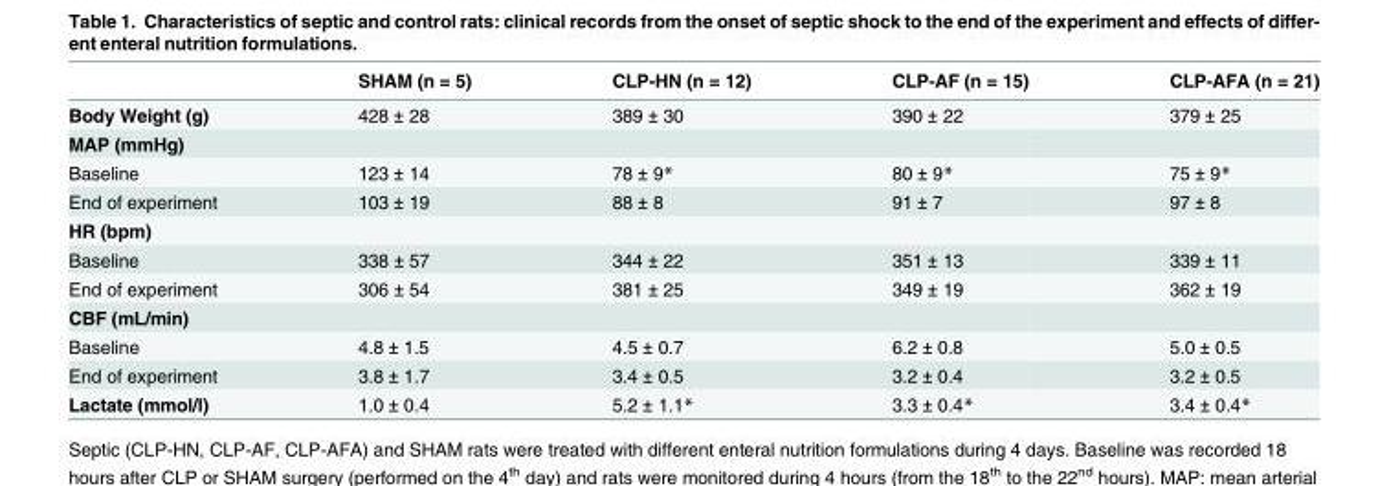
<table><thead><tr><td></td><td>SHAM (n = 5)</td><td>CLP-HN (n = 12)</td><td>CLP-AF (n = 15)</td><td>CLP-AFA (n = 21)</td></tr></thead><tbody><tr><td>Body Weight (g)</td><td>428 ± 28</td><td>389 ± 30</td><td>390 ± 22</td><td>379 ± 25</td></tr><tr><td colspan="5">MAP (mmHg)</td></tr><tr><td>Baseline</td><td>123 ± 14</td><td>78 ± 9*</td><td>80 ± 9*</td><td>75 ± 9*</td></tr><tr><td>End of experiment</td><td>103 ± 19</td><td>88 ± 8</td><td>91 ± 7</td><td>97 ± 8</td></tr><tr><td colspan="5">HR (bpm)</td></tr><tr><td>Baseline</td><td>338 ± 57</td><td>344 ± 22</td><td>351 ± 13</td><td>339 ± 11</td></tr><tr><td>End of experiment</td><td>306 ± 54</td><td>381 ± 25</td><td>349 ± 19</td><td>362 ± 19</td></tr><tr><td colspan="5">CBF (mL/min)</td></tr><tr><td>Baseline</td><td>4.8 ± 1.5</td><td>4.5 ± 0.7</td><td>6.2 ± 0.8</td><td>5.0 ± 0.5</td></tr><tr><td>End of experiment</td><td>3.8 ± 1.7</td><td>3.4 ± 0.5</td><td>3.2 ± 0.4</td><td>3.2 ± 0.5</td></tr><tr><td>Lactate (mmol/l)</td><td>1.0 ± 0.4</td><td>5.2 ± 1.1*</td><td>3.3 ± 0.4*</td><td>3.4 ± 0.4*</td></tr></tbody></table>